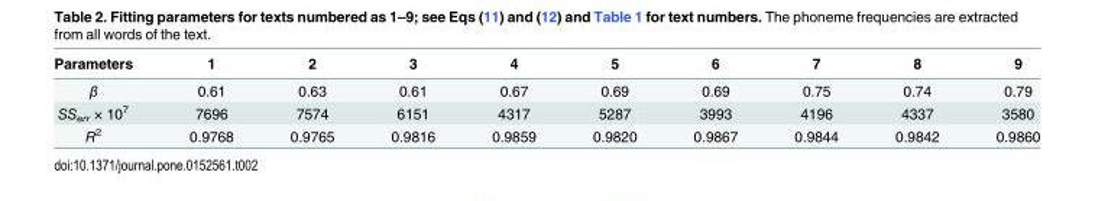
<table><thead><tr><td>Parameters</td><td>1</td><td>2</td><td>3</td><td>4</td><td>5</td><td>6</td><td>7</td><td>8</td><td>9</td></tr></thead><tbody><tr><td>β</td><td>0.61</td><td>0.63</td><td>0.61</td><td>0.67</td><td>0.69</td><td>0.69</td><td>0.75</td><td>0.74</td><td>0.79</td></tr><tr><td>SS<sub>err</sub> × 10<sup>7</sup></td><td>7696</td><td>7574</td><td>6151</td><td>4317</td><td>5287</td><td>3993</td><td>4196</td><td>4337</td><td>3580</td></tr><tr><td>R<sup>2</sup></td><td>0.9768</td><td>0.9765</td><td>0.9816</td><td>0.9859</td><td>0.9820</td><td>0.9867</td><td>0.9844</td><td>0.9842</td><td>0.9860</td></tr></tbody></table>